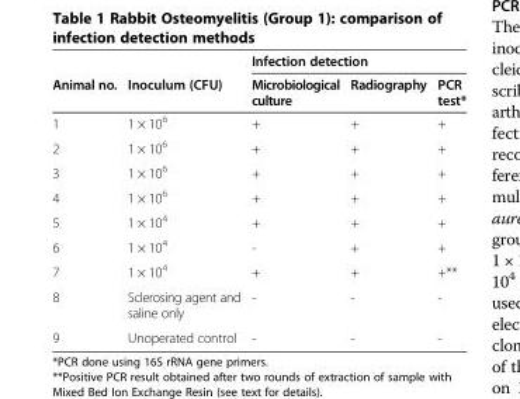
<table><thead><tr><td rowspan="2">Animal no.</td><td rowspan="2">Inoculum (CFU)</td><td colspan="3">Infection detection</td></tr><tr><td>Microbiological culture</td><td>Radiography</td><td>PCR test*</td></tr></thead><tbody><tr><td>1</td><td>1 × 10<sup>6</sup></td><td>+</td><td>+</td><td>+</td></tr><tr><td>2</td><td>1 × 10<sup>6</sup></td><td>+</td><td>+</td><td>+</td></tr><tr><td>3</td><td>1 × 10<sup>6</sup></td><td>+</td><td>+</td><td>+</td></tr><tr><td>4</td><td>1 × 10<sup>6</sup></td><td>+</td><td>+</td><td>+</td></tr><tr><td>5</td><td>1 × 10<sup>4</sup></td><td>+</td><td>+</td><td>+</td></tr><tr><td>6</td><td>1 × 10<sup>4</sup></td><td>-</td><td>+</td><td>+</td></tr><tr><td>7</td><td>1 × 10<sup>4</sup></td><td>+</td><td>+</td><td>+**</td></tr><tr><td>8</td><td>Sclerosing agent and saline only</td><td>-</td><td>-</td><td>-</td></tr><tr><td>9</td><td>Unoperated control</td><td>-</td><td>-</td><td>-</td></tr></tbody></table>